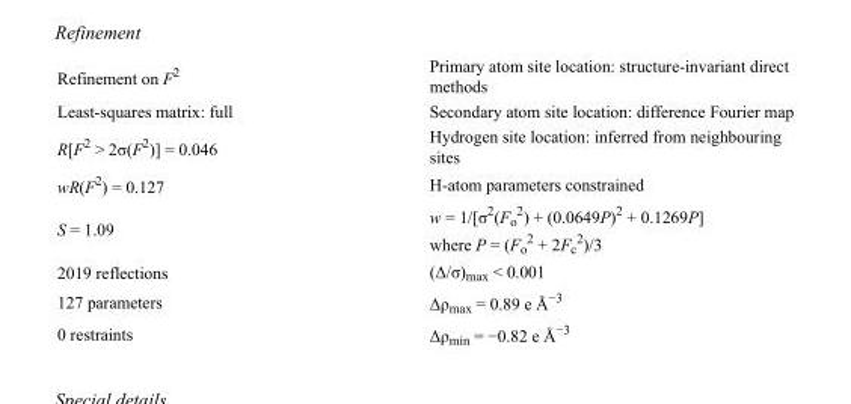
<table><tbody><tr><td>Refinement on F<sup>2</sup></td><td>Primary atom site location: structure-invariant direct methods</td></tr><tr><td>Least-squares matrix: full</td><td>Secondary atom site location: difference Fourier map</td></tr><tr><td>R[F<sup>2</sup> &gt; 2σ(F<sup>2</sup>)] = 0.046</td><td>Hydrogen site location: inferred from neighbouring sites</td></tr><tr><td>wR(F<sup>2</sup>) = 0.127</td><td>H-atom parameters constrained</td></tr><tr><td>S = 1.09</td><td>w = 1/[σ<sup>2</sup>(F<sub>o</sub> <sup>2</sup>) + (0.0649P)<sup>2</sup> + 0.1269P] where P = (F<sub>o</sub> <sup>2</sup> + 2F<sub>c</sub> <sup>2</sup>)/3</td></tr><tr><td>2019 reflections</td><td>(Δ/σ)<sub>max</sub> &lt; 0.001</td></tr><tr><td>127 parameters</td><td>Δρ<sub>max</sub> = 0.89 e Å<sup>−3</sup></td></tr><tr><td>0 restraints</td><td>Δρ<sub>min</sub> = −0.82 e Å<sup>−3</sup></td></tr></tbody></table>